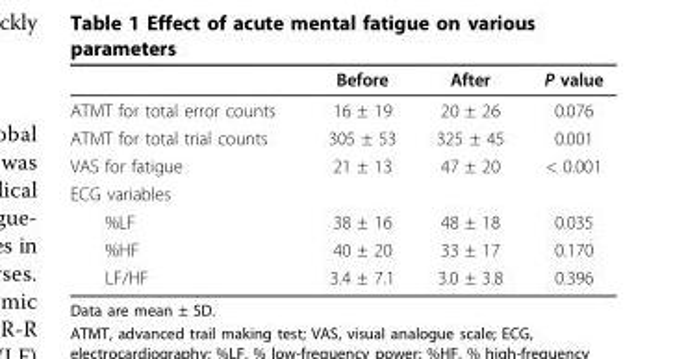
<table><thead><tr><td></td><td>Before</td><td>After</td><td>P value</td></tr></thead><tbody><tr><td>ATMT for total error counts</td><td>16 ± 19</td><td>20 ± 26</td><td>0.076</td></tr><tr><td>ATMT for total trial counts</td><td>305 ± 53</td><td>325 ± 45</td><td>0.001</td></tr><tr><td>VAS for fatigue</td><td>21 ± 13</td><td>47 ± 20</td><td>&lt; 0.001</td></tr><tr><td colspan="4">ECG variables</td></tr><tr><td>%LF</td><td>38 ± 16</td><td>48 ± 18</td><td>0.035</td></tr><tr><td>%HF</td><td>40 ± 20</td><td>33 ± 17</td><td>0.170</td></tr><tr><td>LF/HF</td><td>3.4 ± 7.1</td><td>3.0 ± 3.8</td><td>0.396</td></tr></tbody></table>